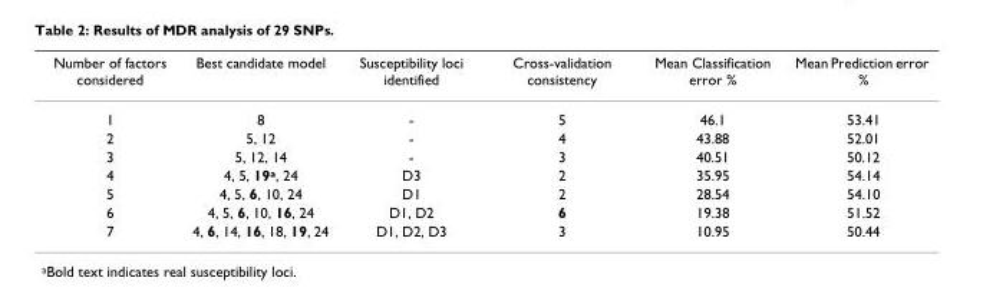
<table><thead><tr><td>Number of factors considered</td><td>Best candidate model</td><td>Susceptibility loci identified</td><td>Cross-validation consistency</td><td>Mean Classification error %</td><td>Mean Prediction error %</td></tr></thead><tbody><tr><td>1</td><td>8</td><td>-</td><td>5</td><td>46.1</td><td>53.41</td></tr><tr><td>2</td><td>5, 12</td><td>-</td><td>4</td><td>43.88</td><td>52.01</td></tr><tr><td>3</td><td>5, 12, 14</td><td>-</td><td>3</td><td>40.51</td><td>50.12</td></tr><tr><td>4</td><td>4, 5, 19a, 24</td><td>D3</td><td>2</td><td>35.95</td><td>54.14</td></tr><tr><td>5</td><td>4, 5, 6, 10, 24</td><td>D1</td><td>2</td><td>28.54</td><td>54.10</td></tr><tr><td>6</td><td>4, 5, 6, 10, 16, 24</td><td>D1, D2</td><td>6</td><td>19.38</td><td>51.52</td></tr><tr><td>7</td><td>4, 6, 14, 16, 18, 19, 24</td><td>D1, D2, D3</td><td>3</td><td>10.95</td><td>50.44</td></tr></tbody></table>